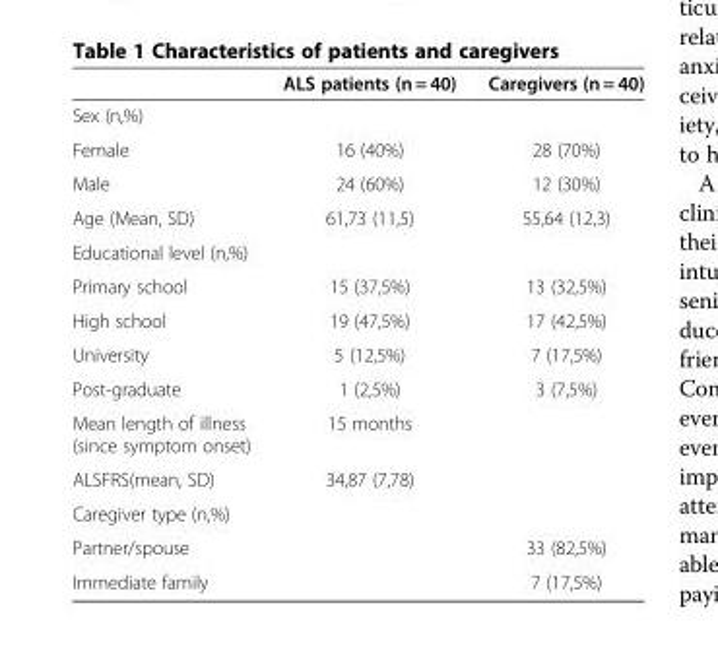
<table><thead><tr><td></td><td>ALS patients (n = 40)</td><td>Caregivers (n = 40)</td></tr></thead><tbody><tr><td colspan="3">Sex (n,%)</td></tr><tr><td>Female</td><td>16 (40%)</td><td>28 (70%)</td></tr><tr><td>Male</td><td>24 (60%)</td><td>12 (30%)</td></tr><tr><td>Age (Mean, SD)</td><td>61,73 (11,5)</td><td>55,64 (12,3)</td></tr><tr><td colspan="3">Educational level (n,%)</td></tr><tr><td>Primary school</td><td>15 (37,5%)</td><td>13 (32,5%)</td></tr><tr><td>High school</td><td>19 (47,5%)</td><td>17 (42,5%)</td></tr><tr><td>University</td><td>5 (12,5%)</td><td>7 (17,5%)</td></tr><tr><td>Post-graduate</td><td>1 (2,5%)</td><td>3 (7,5%)</td></tr><tr><td>Mean length of illness (since symptom onset)</td><td>15 months</td><td></td></tr><tr><td>ALSFRS(mean, SD)</td><td>34,87 (7,78)</td><td></td></tr><tr><td colspan="3">Caregiver type (n,%)</td></tr><tr><td>Partner/spouse</td><td></td><td>33 (82,5%)</td></tr><tr><td>Immediate family</td><td></td><td>7 (17,5%)</td></tr></tbody></table>